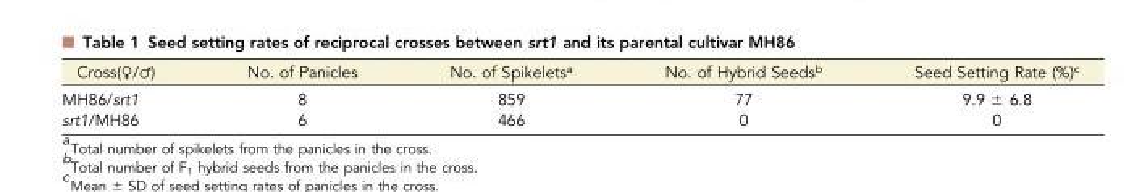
<table><thead><tr><td>Cross(♀/♂)</td><td>No. of Panicles</td><td>No. of Spikelets<sup>a</sup></td><td>No. of Hybrid Seeds<sup>b</sup></td><td>Seed Setting Rate (%)<sup>c</sup></td></tr></thead><tbody><tr><td>MH86/srt1</td><td>8</td><td>859</td><td>77</td><td>9.9 ± 6.8</td></tr><tr><td>srt1/MH86</td><td>6</td><td>466</td><td>0</td><td>0</td></tr></tbody></table>